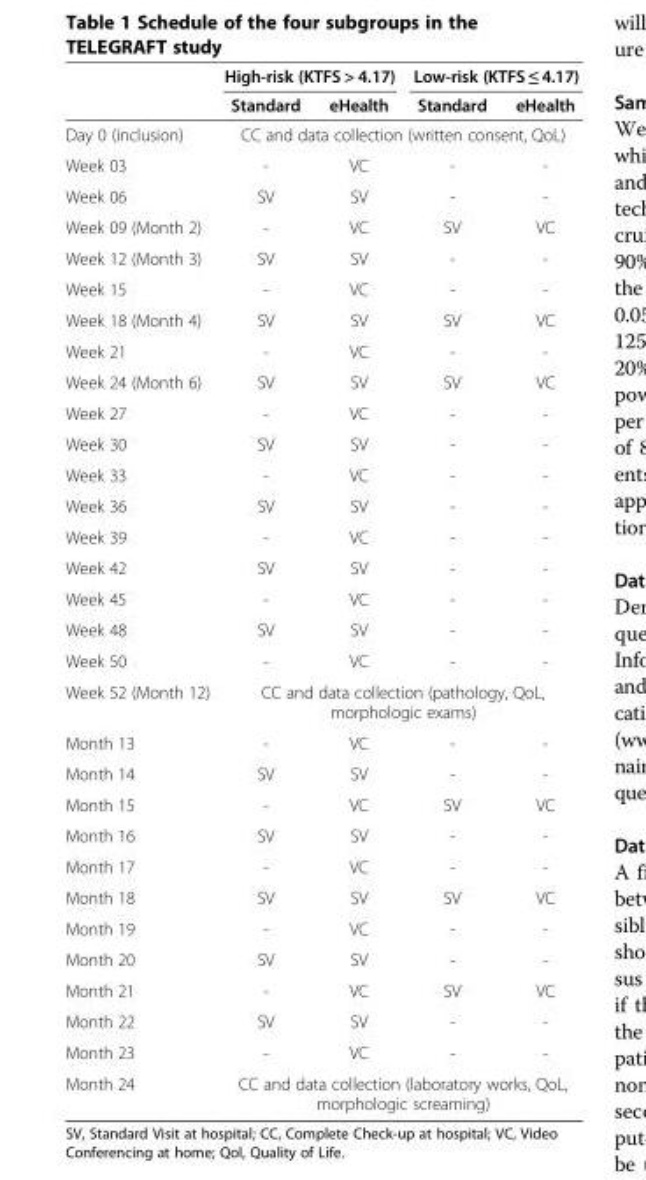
<table><thead><tr><td rowspan="2"></td><td colspan="2">High-risk (KTFS &gt; 4.17)</td><td colspan="2">Low-risk (KTFS ≤ 4.17)</td></tr><tr><td>Standard</td><td>eHealth</td><td>Standard</td><td>eHealth</td></tr></thead><tbody><tr><td>Day 0 (inclusion)</td><td colspan="4">CC and data collection (written consent, QoL)</td></tr><tr><td>Week 03</td><td>-</td><td>VC</td><td>-</td><td>-</td></tr><tr><td>Week 06</td><td>SV</td><td>SV</td><td>-</td><td>-</td></tr><tr><td>Week 09 (Month 2)</td><td>-</td><td>VC</td><td>SV</td><td>VC</td></tr><tr><td>Week 12 (Month 3)</td><td>SV</td><td>SV</td><td>-</td><td>-</td></tr><tr><td>Week 15</td><td>-</td><td>VC</td><td>-</td><td>-</td></tr><tr><td>Week 18 (Month 4)</td><td>SV</td><td>SV</td><td>SV</td><td>VC</td></tr><tr><td>Week 21</td><td>-</td><td>VC</td><td>-</td><td>-</td></tr><tr><td>Week 24 (Month 6)</td><td>SV</td><td>SV</td><td>SV</td><td>VC</td></tr><tr><td>Week 27</td><td>-</td><td>VC</td><td>-</td><td>-</td></tr><tr><td>Week 30</td><td>SV</td><td>SV</td><td>-</td><td>-</td></tr><tr><td>Week 33</td><td>-</td><td>VC</td><td>-</td><td>-</td></tr><tr><td>Week 36</td><td>SV</td><td>SV</td><td>-</td><td>-</td></tr><tr><td>Week 39</td><td>-</td><td>VC</td><td>-</td><td>-</td></tr><tr><td>Week 42</td><td>SV</td><td>SV</td><td>-</td><td>-</td></tr><tr><td>Week 45</td><td>-</td><td>VC</td><td>-</td><td>-</td></tr><tr><td>Week 48</td><td>SV</td><td>SV</td><td>-</td><td>-</td></tr><tr><td>Week 50</td><td>-</td><td>VC</td><td>-</td><td>-</td></tr><tr><td>Week 52 (Month 12)</td><td colspan="4">CC and data collection (pathology, QoL, morphologic exams)</td></tr><tr><td>Month 13</td><td>-</td><td>VC</td><td>-</td><td>-</td></tr><tr><td>Month 14</td><td>SV</td><td>SV</td><td>-</td><td>-</td></tr><tr><td>Month 15</td><td>-</td><td>VC</td><td>SV</td><td>VC</td></tr><tr><td>Month 16</td><td>SV</td><td>SV</td><td>-</td><td>-</td></tr><tr><td>Month 17</td><td>-</td><td>VC</td><td>-</td><td>-</td></tr><tr><td>Month 18</td><td>SV</td><td>SV</td><td>SV</td><td>VC</td></tr><tr><td>Month 19</td><td>-</td><td>VC</td><td>-</td><td>-</td></tr><tr><td>Month 20</td><td>SV</td><td>SV</td><td>-</td><td>-</td></tr><tr><td>Month 21</td><td>-</td><td>VC</td><td>SV</td><td>VC</td></tr><tr><td>Month 22</td><td>SV</td><td>SV</td><td>-</td><td>-</td></tr><tr><td>Month 23</td><td>-</td><td>VC</td><td>-</td><td>-</td></tr><tr><td>Month 24</td><td colspan="4">CC and data collection (laboratory works, QoL, morphologic screaming)</td></tr></tbody></table>